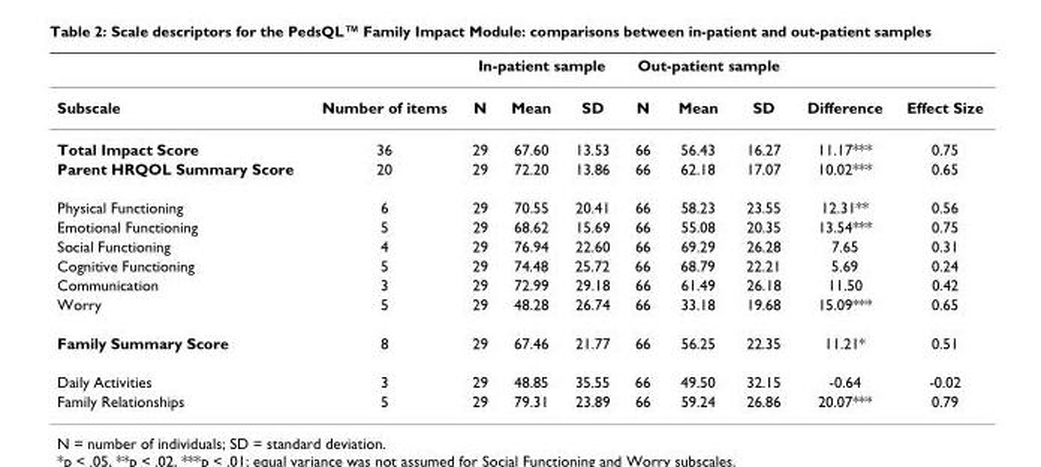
<table><thead><tr><td rowspan="2">Subscale</td><td rowspan="2">Number of items</td><td colspan="3">In-patient sample</td><td colspan="3">Out-patient sample</td><td rowspan="2">Difference</td><td rowspan="2">Effect Size</td></tr><tr><td>N</td><td>Mean</td><td>SD</td><td>N</td><td>Mean</td><td>SD</td></tr></thead><tbody><tr><td>Total Impact Score</td><td>36</td><td>29</td><td>67.60</td><td>13.53</td><td>66</td><td>56.43</td><td>16.27</td><td>11.17***</td><td>0.75</td></tr><tr><td>Parent HRQOL Summary Score</td><td>20</td><td>29</td><td>72.20</td><td>13.86</td><td>66</td><td>62.18</td><td>17.07</td><td>10.02***</td><td>0.65</td></tr><tr><td>Physical Functioning</td><td>6</td><td>29</td><td>70.55</td><td>20.41</td><td>66</td><td>58.23</td><td>23.55</td><td>12.31**</td><td>0.56</td></tr><tr><td>Emotional Functioning</td><td>5</td><td>29</td><td>68.62</td><td>15.69</td><td>66</td><td>55.08</td><td>20.35</td><td>13.54***</td><td>0.75</td></tr><tr><td>Social Functioning</td><td>4</td><td>29</td><td>76.94</td><td>22.60</td><td>66</td><td>69.29</td><td>26.28</td><td>7.65</td><td>0.31</td></tr><tr><td>Cognitive Functioning</td><td>5</td><td>29</td><td>74.48</td><td>25.72</td><td>66</td><td>68.79</td><td>22.21</td><td>5.69</td><td>0.24</td></tr><tr><td>Communication</td><td>3</td><td>29</td><td>72.99</td><td>29.18</td><td>66</td><td>61.49</td><td>26.18</td><td>11.50</td><td>0.42</td></tr><tr><td>Worry</td><td>5</td><td>29</td><td>48.28</td><td>26.74</td><td>66</td><td>33.18</td><td>19.68</td><td>15.09***</td><td>0.65</td></tr><tr><td>Family Summary Score</td><td>8</td><td>29</td><td>67.46</td><td>21.77</td><td>66</td><td>56.25</td><td>22.35</td><td>11.21*</td><td>0.51</td></tr><tr><td>Daily Activities</td><td>3</td><td>29</td><td>48.85</td><td>35.55</td><td>66</td><td>49.50</td><td>32.15</td><td>-0.64</td><td>-0.02</td></tr><tr><td>Family Relationships</td><td>5</td><td>29</td><td>79.31</td><td>23.89</td><td>66</td><td>59.24</td><td>26.86</td><td>20.07***</td><td>0.79</td></tr></tbody></table>